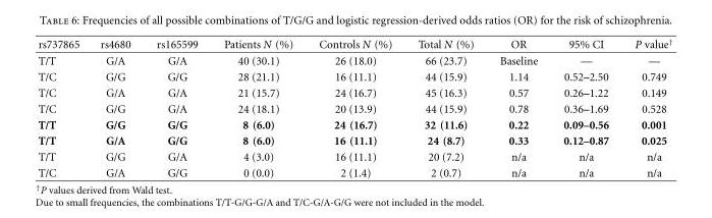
<table><thead><tr><td>rs737865</td><td>rs4680</td><td>rs165599</td><td>Patients N (%)</td><td>Controls N (%)</td><td>Total N (%)</td><td>OR</td><td>95% CI</td><td>P value<sup>†</sup></td></tr></thead><tbody><tr><td>T/T</td><td>G/A</td><td>G/A</td><td>40 (30.1)</td><td>26 (18.0)</td><td>66 (23.7)</td><td>Baseline</td><td>—</td><td>—</td></tr><tr><td>T/C</td><td>G/G</td><td>G/G</td><td>28 (21.1)</td><td>16 (11.1)</td><td>44 (15.9)</td><td>1.14</td><td>0.52–2.50</td><td>0.749</td></tr><tr><td>T/C</td><td>G/A</td><td>G/A</td><td>21 (15.7)</td><td>24 (16.7)</td><td>45 (16.3)</td><td>0.57</td><td>0.26–1.22</td><td>0.149</td></tr><tr><td>T/C</td><td>G/G</td><td>G/A</td><td>24 (18.1)</td><td>20 (13.9)</td><td>44 (15.9)</td><td>0.78</td><td>0.36–1.69</td><td>0.528</td></tr><tr><td>T/T</td><td>G/G</td><td>G/G</td><td>8 (6.0)</td><td>24 (16.7)</td><td>32 (11.6)</td><td>0.22</td><td>0.09–0.56</td><td>0.001</td></tr><tr><td>T/T</td><td>G/A</td><td>G/G</td><td>8 (6.0)</td><td>16 (11.1)</td><td>24 (8.7)</td><td>0.33</td><td>0.12–0.87</td><td>0.025</td></tr><tr><td>T/T</td><td>G/G</td><td>G/A</td><td>4 (3.0)</td><td>16 (11.1)</td><td>20 (7.2)</td><td>n/a</td><td>n/a</td><td>n/a</td></tr><tr><td>T/C</td><td>G/A</td><td>G/G</td><td>0 (0.0)</td><td>2 (1.4)</td><td>2 (0.7)</td><td>n/a</td><td>n/a</td><td>n/a</td></tr></tbody></table>